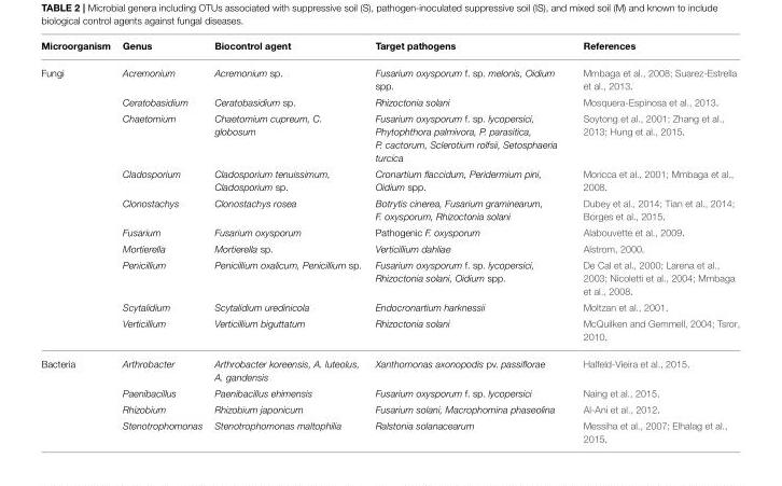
<table><thead><tr><td>Microorganism</td><td>Genus</td><td>Biocontrol agent</td><td>Target pathogens</td><td>References</td></tr></thead><tbody><tr><td rowspan="10">Fungi</td><td>Acremonium</td><td>Acremonium sp.</td><td>Fusarium oxysporum f. sp. melonis, Oidium spp.</td><td>Mmbaga et al., 2008; Suarez-Estrella et al., 2013.</td></tr><tr><td>Ceratobasidium</td><td>Ceratobasidium sp.</td><td>Rhizoctonia solani</td><td>Mosquera-Espinosa et al., 2013.</td></tr><tr><td>Chaetomium</td><td>Chaetomium cupreum, C. globosum</td><td>Fusarium oxysporum f. sp. lycopersici, Phytophthora palmivora, P. parasitica, P. cactorum, Sclerotium rolfsii, Setosphaeria turcica</td><td>Soytong et al., 2001; Zhang et al., 2013; Hung et al., 2015.</td></tr><tr><td>Cladosporium</td><td>Cladosporium tenuissimum, Cladosporium sp.</td><td>Cronartium flaccidum, Peridermium pini, Oidium spp.</td><td>Moricca et al., 2001; Mmbaga et al., 2008.</td></tr><tr><td>Clonostachys</td><td>Clonostachys rosea</td><td>Botrytis cinerea, Fusarium graminearum, F. oxysporum, Rhizoctonia solani</td><td>Dubey et al., 2014; Tian et al., 2014; Borges et al., 2015.</td></tr><tr><td>Fusarium</td><td>Fusarium oxysporum</td><td>Pathogenic F. oxysporum</td><td>Alabouvette et al., 2009.</td></tr><tr><td>Mortierella</td><td>Mortierella sp.</td><td>Verticillium dahliae</td><td>Alstrom, 2000.</td></tr><tr><td>Penicillium</td><td>Penicillium oxalicum, Penicillium sp.</td><td>Fusarium oxysporum f. sp. lycopersici, Rhizoctonia solani, Oidium spp.</td><td>De Cal et al., 2000; Larena et al., 2003; Nicoletti et al., 2004; Mmbaga et al., 2008.</td></tr><tr><td>Scytalidium</td><td>Scytalidium uredinicola</td><td>Endocronartium harknessii</td><td>Moltzan et al., 2001.</td></tr><tr><td>Verticillium</td><td>Verticillium biguttatum</td><td>Rhizoctonia solani</td><td>McQuilken and Gemmell, 2004; Tsror, 2010.</td></tr><tr><td rowspan="4">Bacteria</td><td>Arthrobacter</td><td>Arthrobacter koreensis, A. luteolus, A. gandensis</td><td>Xanthomonas axonopodis pv. passiflorae</td><td>Halfeld-Vieira et al., 2015.</td></tr><tr><td>Paenibacillus</td><td>Paenibacillus ehimensis</td><td>Fusarium oxysporum f. sp. lycopersici</td><td>Naing et al., 2015.</td></tr><tr><td>Rhizobium</td><td>Rhizobium japonicum</td><td>Fusarium solani, Macrophomina phaseolina</td><td>Al-Ani et al., 2012.</td></tr><tr><td>Stenotrophomonas</td><td>Stenotrophomonas maltophilia</td><td>Ralstonia solanacearum</td><td>Messiha et al., 2007; Elhalag et al., 2015.</td></tr></tbody></table>